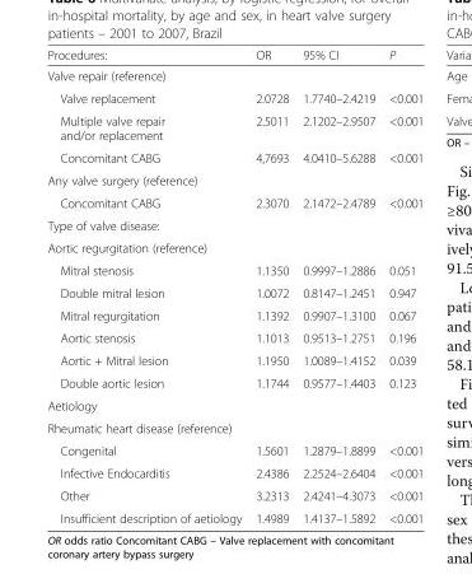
<table><thead><tr><td>Procedures:</td><td>OR</td><td>95% CI</td><td>P</td></tr></thead><tbody><tr><td colspan="4">Valve repair (reference)</td></tr><tr><td>Valve replacement</td><td>2.0728</td><td>1.7740–2.4219</td><td>&lt;0.001</td></tr><tr><td>Multiple valve repair and/or replacement</td><td>2.5011</td><td>2.1202–2.9507</td><td>&lt;0.001</td></tr><tr><td>Concomitant CABG</td><td>4,7693</td><td>4.0410–5.6288</td><td>&lt;0.001</td></tr><tr><td colspan="4">Any valve surgery (reference)</td></tr><tr><td>Concomitant CABG</td><td>2.3070</td><td>2.1472–2.4789</td><td>&lt;0.001</td></tr><tr><td colspan="4">Type of valve disease:</td></tr><tr><td colspan="4">Aortic regurgitation (reference)</td></tr><tr><td>Mitral stenosis</td><td>1.1350</td><td>0.9997–1.2886</td><td>0.051</td></tr><tr><td>Double mitral lesion</td><td>1.0072</td><td>0.8147–1.2451</td><td>0.947</td></tr><tr><td>Mitral regurgitation</td><td>1.1392</td><td>0.9907–1.3100</td><td>0.067</td></tr><tr><td>Aortic stenosis</td><td>1.1013</td><td>0.9513–1.2751</td><td>0.196</td></tr><tr><td>Aortic + Mitral lesion</td><td>1.1950</td><td>1.0089–1.4152</td><td>0.039</td></tr><tr><td>Double aortic lesion</td><td>1.1744</td><td>0.9577–1.4403</td><td>0.123</td></tr><tr><td colspan="4">Aetiology</td></tr><tr><td colspan="4">Rheumatic heart disease (reference)</td></tr><tr><td>Congenital</td><td>1.5601</td><td>1.2879–1.8899</td><td>&lt;0.001</td></tr><tr><td>Infective Endocarditis</td><td>2.4386</td><td>2.2524–2.6404</td><td>&lt;0.001</td></tr><tr><td>Other</td><td>3.2313</td><td>2.4241–4.3073</td><td>&lt;0.001</td></tr><tr><td>Insufficient description of aetiology</td><td>1.4989</td><td>1.4137–1.5892</td><td>&lt;0.001</td></tr></tbody></table>